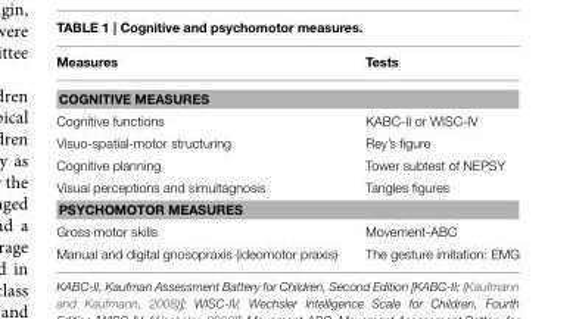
<table><thead><tr><td>Measures</td><td>Tests</td></tr></thead><tbody><tr><td colspan="2">COGNITIVE MEASURES</td></tr><tr><td>Cognitive functions</td><td>KABC-II or WISC-IV</td></tr><tr><td>Visuo-spatial-motor structuring</td><td>Rey’s figure</td></tr><tr><td>Cognitive planning</td><td>Tower subtest of NEPSY</td></tr><tr><td>Visual perceptions and simultagnosis</td><td>Tangles figures</td></tr><tr><td colspan="2">PSYCHOMOTOR MEASURES</td></tr><tr><td>Gross motor skills</td><td>Movement-ABC</td></tr><tr><td>Manual and digital gnosopraxis (ideomotor praxis)</td><td>The gesture imitation: EMG</td></tr></tbody></table>